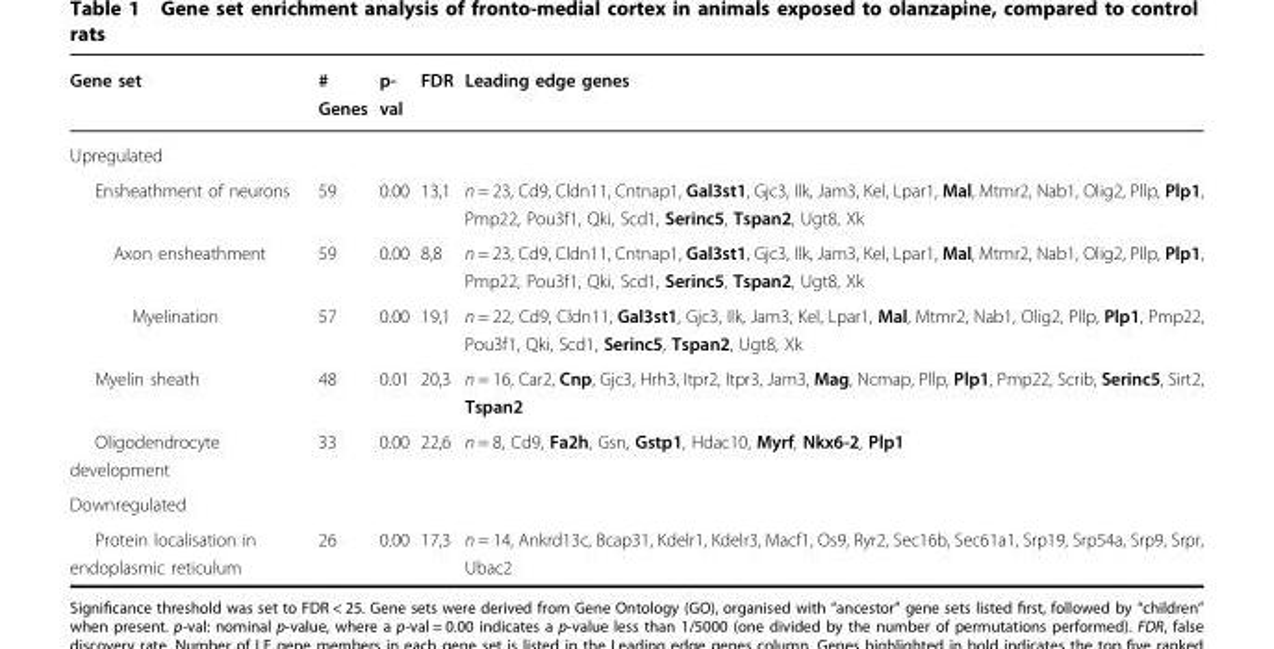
<table><thead><tr><td>Gene set</td><td># Genes</td><td>p- val</td><td>FDR</td><td>Leading edge genes</td></tr></thead><tbody><tr><td colspan="5">Upregulated</td></tr><tr><td>Ensheathment of neurons</td><td>59</td><td>0.00</td><td>13,1</td><td>n = 23, Cd9, Cldn11, Cntnap1, Gal3st1, Gjc3, Ilk, Jam3, Kel, Lpar1, Mal, Mtmr2, Nab1, Olig2, Pllp, Plp1, Pmp22, Pou3f1, Qki, Scd1, Serinc5, Tspan2, Ugt8, Xk</td></tr><tr><td>Axon ensheathment</td><td>59</td><td>0.00</td><td>8,8</td><td>n = 23, Cd9, Cldn11, Cntnap1, Gal3st1, Gjc3, Ilk, Jam3, Kel, Lpar1, Mal, Mtmr2, Nab1, Olig2, Pllp, Plp1, Pmp22, Pou3f1, Qki, Scd1, Serinc5, Tspan2, Ugt8, Xk</td></tr><tr><td>Myelination</td><td>57</td><td>0.00</td><td>19,1</td><td>n = 22, Cd9, Cldn11, Gal3st1, Gjc3, Ilk, Jam3, Kel, Lpar1, Mal, Mtmr2, Nab1, Olig2, Pllp, Plp1, Pmp22, Pou3f1, Qki, Scd1, Serinc5, Tspan2, Ugt8, Xk</td></tr><tr><td>Myelin sheath</td><td>48</td><td>0.01</td><td>20,3</td><td>n = 16, Car2, Cnp, Gjc3, Hrh3, Itpr2, Itpr3, Jam3, Mag, Ncmap, Pllp, Plp1, Pmp22, Scrib, Serinc5, Sirt2, Tspan2</td></tr><tr><td>Oligodendrocyte development</td><td>33</td><td>0.00</td><td>22,6</td><td>n = 8, Cd9, Fa2h, Gsn, Gstp1, Hdac10, Myrf, Nkx6-2, Plp1</td></tr><tr><td colspan="5">Downregulated</td></tr><tr><td>Protein localisation in endoplasmic reticulum</td><td>26</td><td>0.00</td><td>17,3</td><td>n = 14, Ankrd13c, Bcap31, Kdelr1, Kdelr3, Macf1, Os9, Ryr2, Sec16b, Sec61a1, Srp19, Srp54a, Srp9, Srpr, Ubac2</td></tr></tbody></table>